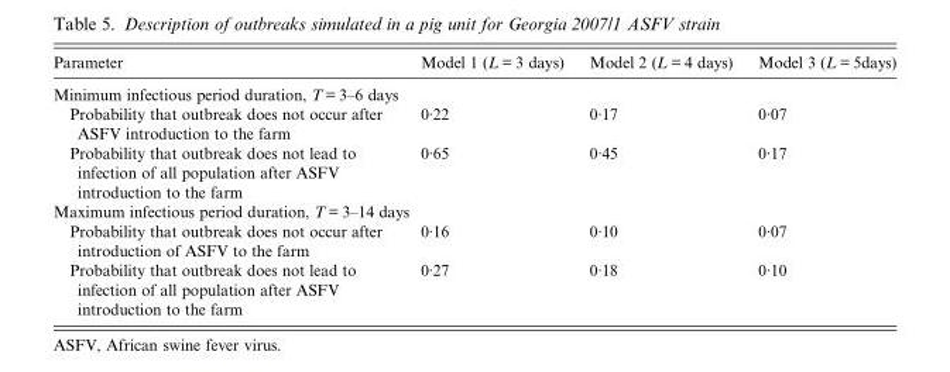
<table><thead><tr><td>Parameter</td><td>Model 1 (L = 3 days)</td><td>Model 2 (L = 4 days)</td><td>Model 3 (L = 5days)</td></tr></thead><tbody><tr><td colspan="4">Minimum infectious period duration, T = 3–6 days</td></tr><tr><td>Probability that outbreak does not occur after ASFV introduction to the farm</td><td>0·22</td><td>0·17</td><td>0·07</td></tr><tr><td>Probability that outbreak does not lead to infection of all population after ASFV introduction to the farm</td><td>0·65</td><td>0·45</td><td>0·17</td></tr><tr><td colspan="4">Maximum infectious period duration, T = 3–14 days</td></tr><tr><td>Probability that outbreak does not occur after introduction of ASFV to the farm</td><td>0·16</td><td>0·10</td><td>0·07</td></tr><tr><td>Probability that outbreak does not lead to infection of all population after ASFV introduction to the farm</td><td>0·27</td><td>0·18</td><td>0·10</td></tr></tbody></table>